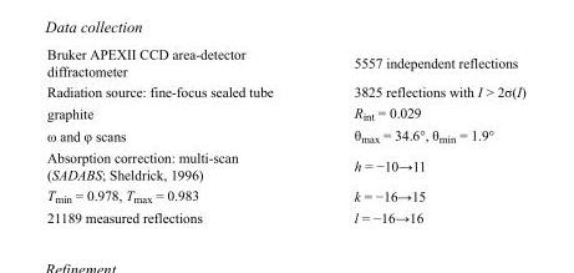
<table><tbody><tr><td>Bruker APEXII CCD area-detector diffractometer</td><td>5557 independent reflections</td></tr><tr><td>Radiation source: fine-focus sealed tube</td><td>3825 reflections with I &gt; 2σ(I)</td></tr><tr><td>graphite</td><td>R<sub>int</sub> = 0.029</td></tr><tr><td>ω and φ scans</td><td>θ<sub>max</sub> = 34.6°, θ<sub>min</sub> = 1.9°</td></tr><tr><td>Absorption correction: multi-scan (SADABS; Sheldrick, 1996)</td><td>h = −10→11</td></tr><tr><td>T<sub>min</sub> = 0.978, T<sub>max</sub> = 0.983</td><td>k = −16→15</td></tr><tr><td>21189 measured reflections</td><td>l = −16→16</td></tr></tbody></table>